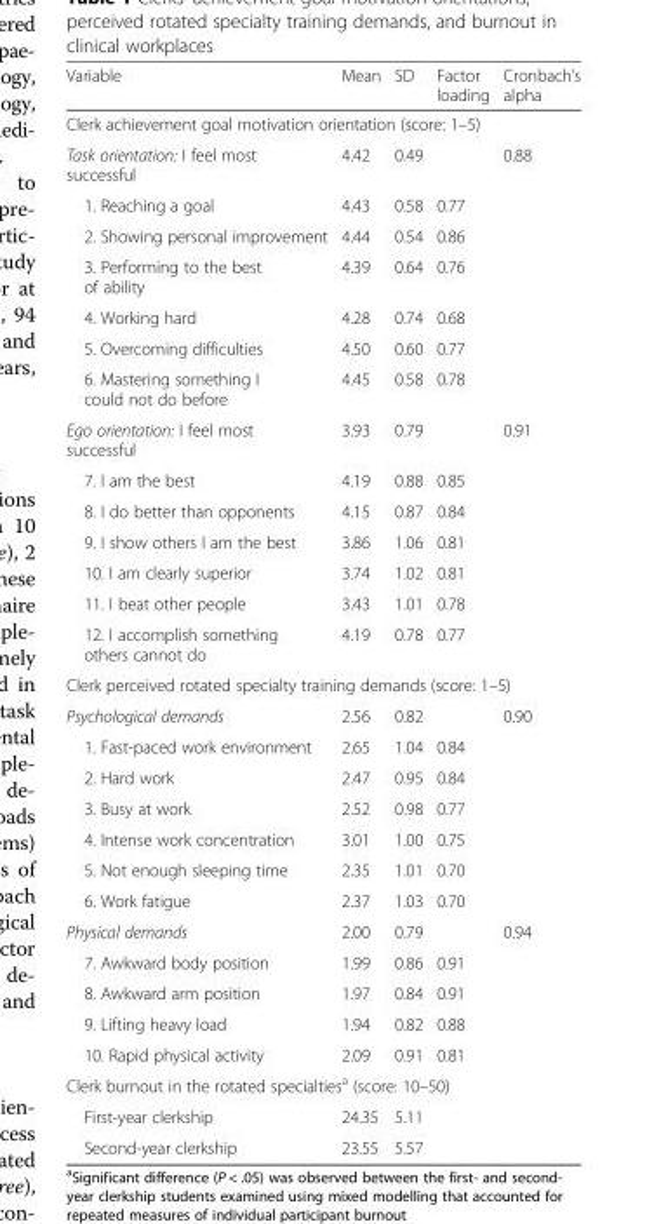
<table><thead><tr><td>Variable</td><td>Mean</td><td>SD</td><td>Factor loading</td><td>Cronbach’s alpha</td></tr></thead><tbody><tr><td colspan="5">Clerk achievement goal motivation orientation (score: 1–5)</td></tr><tr><td>Task orientation: I feel most successful</td><td>4.42</td><td>0.49</td><td></td><td>0.88</td></tr><tr><td>1. Reaching a goal</td><td>4.43</td><td>0.58</td><td>0.77</td><td></td></tr><tr><td>2. Showing personal improvement</td><td>4.44</td><td>0.54</td><td>0.86</td><td></td></tr><tr><td>3. Performing to the best of ability</td><td>4.39</td><td>0.64</td><td>0.76</td><td></td></tr><tr><td>4. Working hard</td><td>4.28</td><td>0.74</td><td>0.68</td><td></td></tr><tr><td>5. Overcoming difficulties</td><td>4.50</td><td>0.60</td><td>0.77</td><td></td></tr><tr><td>6. Mastering something I could not do before</td><td>4.45</td><td>0.58</td><td>0.78</td><td></td></tr><tr><td>Ego orientation: I feel most successful</td><td>3.93</td><td>0.79</td><td></td><td>0.91</td></tr><tr><td>7. I am the best</td><td>4.19</td><td>0.88</td><td>0.85</td><td></td></tr><tr><td>8. I do better than opponents</td><td>4.15</td><td>0.87</td><td>0.84</td><td></td></tr><tr><td>9. I show others I am the best</td><td>3.86</td><td>1.06</td><td>0.81</td><td></td></tr><tr><td>10. I am clearly superior</td><td>3.74</td><td>1.02</td><td>0.81</td><td></td></tr><tr><td>11. I beat other people</td><td>3.43</td><td>1.01</td><td>0.78</td><td></td></tr><tr><td>12. I accomplish something others cannot do</td><td>4.19</td><td>0.78</td><td>0.77</td><td></td></tr><tr><td colspan="5">Clerk perceived rotated specialty training demands (score: 1–5)</td></tr><tr><td>Psychological demands</td><td>2.56</td><td>0.82</td><td></td><td>0.90</td></tr><tr><td>1. Fast-paced work environment</td><td>2.65</td><td>1.04</td><td>0.84</td><td></td></tr><tr><td>2. Hard work</td><td>2.47</td><td>0.95</td><td>0.84</td><td></td></tr><tr><td>3. Busy at work</td><td>2.52</td><td>0.98</td><td>0.77</td><td></td></tr><tr><td>4. Intense work concentration</td><td>3.01</td><td>1.00</td><td>0.75</td><td></td></tr><tr><td>5. Not enough sleeping time</td><td>2.35</td><td>1.01</td><td>0.70</td><td></td></tr><tr><td>6. Work fatigue</td><td>2.37</td><td>1.03</td><td>0.70</td><td></td></tr><tr><td>Physical demands</td><td>2.00</td><td>0.79</td><td></td><td>0.94</td></tr><tr><td>7. Awkward body position</td><td>1.99</td><td>0.86</td><td>0.91</td><td></td></tr><tr><td>8. Awkward arm position</td><td>1.97</td><td>0.84</td><td>0.91</td><td></td></tr><tr><td>9. Lifting heavy load</td><td>1.94</td><td>0.82</td><td>0.88</td><td></td></tr><tr><td>10. Rapid physical activity</td><td>2.09</td><td>0.91</td><td>0.81</td><td></td></tr><tr><td colspan="5">Clerk burnout in the rotated specialties<sup>a</sup> (score: 10–50)</td></tr><tr><td>First-year clerkship</td><td>24.35</td><td>5.11</td><td></td><td></td></tr><tr><td>Second-year clerkship</td><td>23.55</td><td>5.57</td><td></td><td></td></tr></tbody></table>